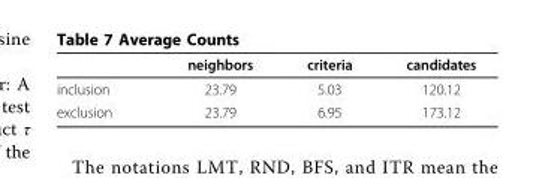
<table><thead><tr><td></td><td>neighbors</td><td>criteria</td><td>candidates</td></tr></thead><tbody><tr><td>inclusion</td><td>23.79</td><td>5.03</td><td>120.12</td></tr><tr><td>exclusion</td><td>23.79</td><td>6.95</td><td>173.12</td></tr></tbody></table>